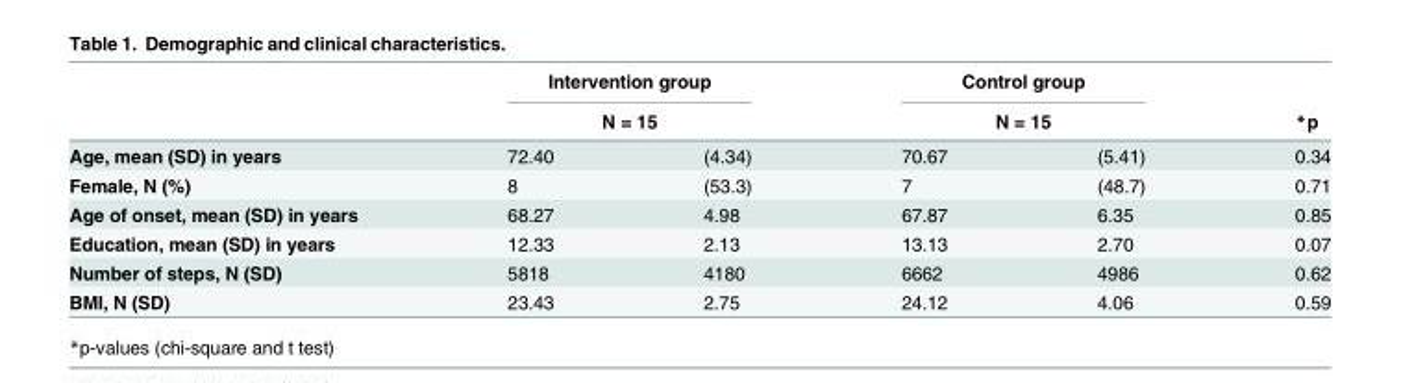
<table><thead><tr><td rowspan="3">Age, mean (SD) in years</td><td rowspan="2" colspan="2">Intervention group N = 15</td><td rowspan="2" colspan="2">Control group N = 15</td><td rowspan="3">*p 0.34</td></tr><tr></tr><tr><td>72.40</td><td>(4.34)</td><td>70.67</td><td>(5.41)</td></tr></thead><tbody><tr><td>Female, N (%)</td><td>8</td><td>(53.3)</td><td>7</td><td>(48.7)</td><td>0.71</td></tr><tr><td>Age of onset, mean (SD) in years</td><td>68.27</td><td>4.98</td><td>67.87</td><td>6.35</td><td>0.85</td></tr><tr><td>Education, mean (SD) in years</td><td>12.33</td><td>2.13</td><td>13.13</td><td>2.70</td><td>0.07</td></tr><tr><td>Number of steps, N (SD)</td><td>5818</td><td>4180</td><td>6662</td><td>4986</td><td>0.62</td></tr><tr><td>BMI, N (SD)</td><td>23.43</td><td>2.75</td><td>24.12</td><td>4.06</td><td>0.59</td></tr></tbody></table>